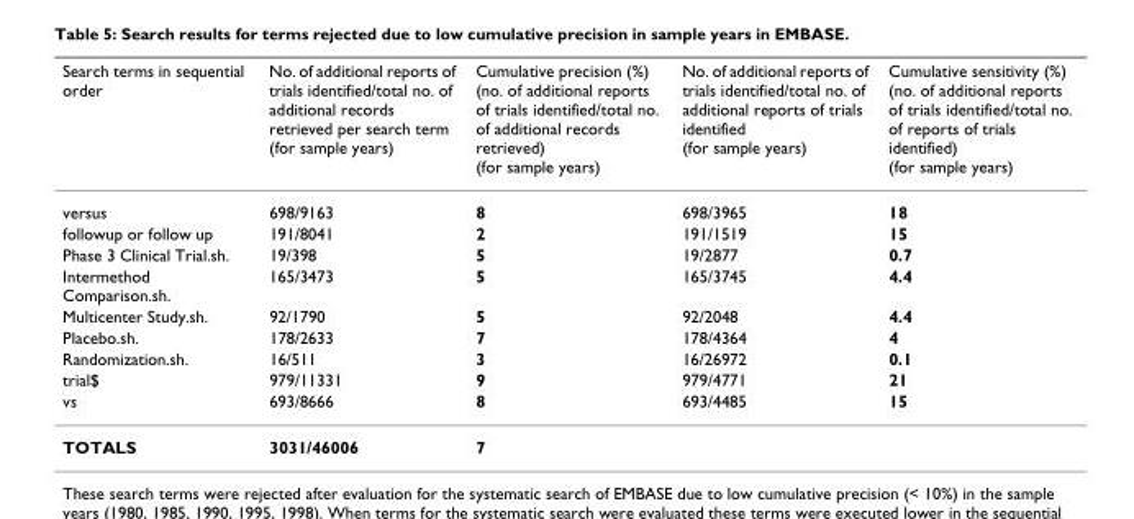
<table><thead><tr><td>Search terms in sequential order</td><td>No. of additional reports of trials identified/total no. of additional records retrieved per search term (for sample years)</td><td>Cumulative precision (%) (no. of additional reports of trials identified/total no. of additional records retrieved) (for sample years)</td><td>No. of additional reports of trials identified/total no. of additional reports of trials identified (for sample years)</td><td>Cumulative sensitivity (%) (no. of additional reports of trials identified/total no. of reports of trials identified) (for sample years)</td></tr></thead><tbody><tr><td>versus</td><td>698/9163</td><td>8</td><td>698/3965</td><td>18</td></tr><tr><td>followup or follow up</td><td>191/8041</td><td>2</td><td>191/1519</td><td>15</td></tr><tr><td>Phase 3 Clinical Trial.sh.</td><td>19/398</td><td>5</td><td>19/2877</td><td>0.7</td></tr><tr><td>Intermethod Comparison.sh.</td><td>165/3473</td><td>5</td><td>165/3745</td><td>4.4</td></tr><tr><td>Multicenter Study.sh.</td><td>92/1790</td><td>5</td><td>92/2048</td><td>4.4</td></tr><tr><td>Placebo.sh.</td><td>178/2633</td><td>7</td><td>178/4364</td><td>4</td></tr><tr><td>Randomization.sh.</td><td>16/511</td><td>3</td><td>16/26972</td><td>0.1</td></tr><tr><td>trial$</td><td>979/11331</td><td>9</td><td>979/4771</td><td>21</td></tr><tr><td>vs</td><td>693/8666</td><td>8</td><td>693/4485</td><td>15</td></tr><tr><td>TOTALS</td><td>3031/46006</td><td>7</td><td></td><td></td></tr></tbody></table>